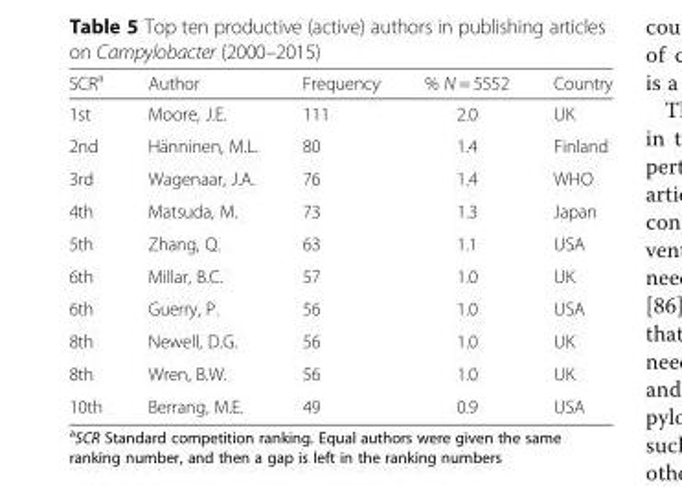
<table><thead><tr><td>SCR<sup>a</sup></td><td>Author</td><td>Frequency</td><td>% N = 5552</td><td>Country</td></tr></thead><tbody><tr><td>1st</td><td>Moore, J.E.</td><td>111</td><td>2.0</td><td>UK</td></tr><tr><td>2nd</td><td>Hänninen, M.L.</td><td>80</td><td>1.4</td><td>Finland</td></tr><tr><td>3rd</td><td>Wagenaar, J.A.</td><td>76</td><td>1.4</td><td>WHO</td></tr><tr><td>4th</td><td>Matsuda, M.</td><td>73</td><td>1.3</td><td>Japan</td></tr><tr><td>5th</td><td>Zhang, Q.</td><td>63</td><td>1.1</td><td>USA</td></tr><tr><td>6th</td><td>Millar, B.C.</td><td>57</td><td>1.0</td><td>UK</td></tr><tr><td>6th</td><td>Guerry, P.</td><td>56</td><td>1.0</td><td>USA</td></tr><tr><td>8th</td><td>Newell, D.G.</td><td>56</td><td>1.0</td><td>UK</td></tr><tr><td>8th</td><td>Wren, B.W.</td><td>56</td><td>1.0</td><td>UK</td></tr><tr><td>10th</td><td>Berrang, M.E.</td><td>49</td><td>0.9</td><td>USA</td></tr></tbody></table>